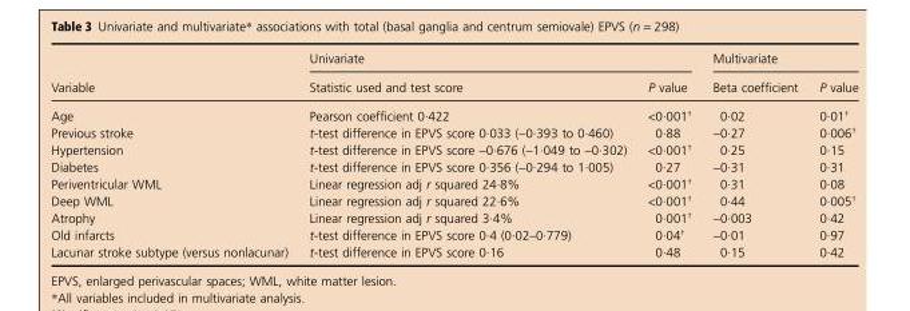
<table><thead><tr><td rowspan="2">Variable</td><td colspan="2">Univariate</td><td colspan="2">Multivariate</td></tr><tr><td>Statistic used and test score</td><td>P value</td><td>Beta coefficient</td><td>P value</td></tr></thead><tbody><tr><td>Age</td><td>Pearson coefficient 0·422</td><td>&lt;0·001†</td><td>0·02</td><td>0·01†</td></tr><tr><td>Previous stroke</td><td>t-test difference in EPVS score 0·033 (-0·393 to 0·460)</td><td>0·88</td><td>-0·27</td><td>0·006†</td></tr><tr><td>Hypertension</td><td>t-test difference in EPVS score -0·676 (-1·049 to -0·302)</td><td>&lt;0·001†</td><td>0·25</td><td>0·15</td></tr><tr><td>Diabetes</td><td>t-test difference in EPVS score 0·356 (-0·294 to 1·005)</td><td>0·27</td><td>-0·31</td><td>0·31</td></tr><tr><td>Periventricular WML</td><td>Linear regression adj r squared 24·8%</td><td>&lt;0·001†</td><td>0·31</td><td>0·08</td></tr><tr><td>Deep WML</td><td>Linear regression adj r squared 22·6%</td><td>&lt;0·001†</td><td>0·44</td><td>0·005†</td></tr><tr><td>Atrophy</td><td>Linear regression adj r squared 3·4%</td><td>0·001†</td><td>-0·003</td><td>0·42</td></tr><tr><td>Old infarcts</td><td>t-test difference in EPVS score 0·4 (0·02–0·779)</td><td>0·04†</td><td>-0·01</td><td>0·97</td></tr><tr><td>Lacunar stroke subtype (versus nonlacunar)</td><td>t-test difference in EPVS score 0·16</td><td>0·48</td><td>0·15</td><td>0·42</td></tr></tbody></table>